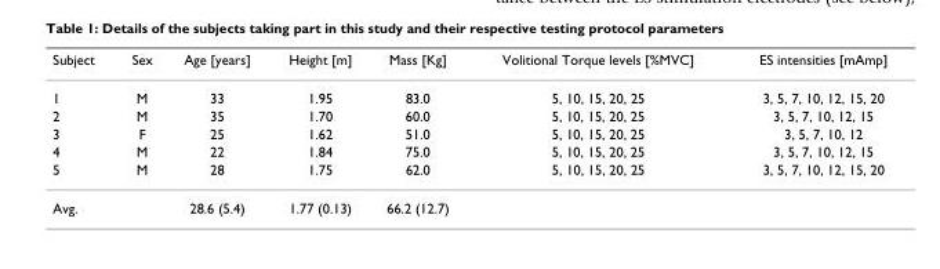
<table><thead><tr><td>Subject</td><td>Sex</td><td>Age [years]</td><td>Height [m]</td><td>Mass [Kg]</td><td>Volitional Torque levels [%MVC]</td><td>ES intensities [mAmp]</td></tr></thead><tbody><tr><td>1</td><td>M</td><td>33</td><td>1.95</td><td>83.0</td><td>5, 10, 15, 20, 25</td><td>3, 5, 7, 10, 12, 15, 20</td></tr><tr><td>2</td><td>M</td><td>35</td><td>1.70</td><td>60.0</td><td>5, 10, 15, 20, 25</td><td>3, 5, 7, 10, 12, 15</td></tr><tr><td>3</td><td>F</td><td>25</td><td>1.62</td><td>51.0</td><td>5, 10, 15, 20, 25</td><td>3, 5, 7, 10, 12</td></tr><tr><td>4</td><td>M</td><td>22</td><td>1.84</td><td>75.0</td><td>5, 10, 15, 20, 25</td><td>3, 5, 7, 10, 12, 15</td></tr><tr><td>5</td><td>M</td><td>28</td><td>1.75</td><td>62.0</td><td>5, 10, 15, 20, 25</td><td>3, 5, 7, 10, 12, 15, 20</td></tr><tr><td>Avg.</td><td></td><td>28.6 (5.4)</td><td>1.77 (0.13)</td><td>66.2 (12.7)</td><td></td><td></td></tr></tbody></table>